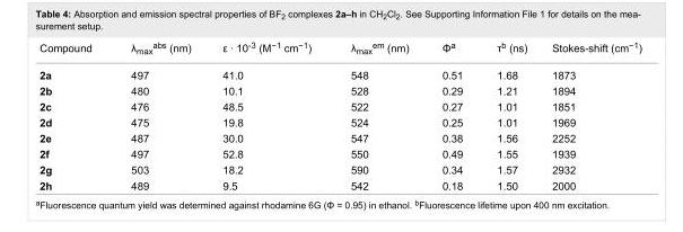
<table><tbody><tr><td>Compound</td><td>λ<sub>max</sub><sup>abs</sup> (nm)</td><td>ε · 10<sup>-3</sup> (M<sup>−1</sup> cm<sup>−1</sup>)</td><td>λ<sub>max</sub><sup>em</sup> (nm)</td><td>Φ<sup>a</sup></td><td>τ<sup>b</sup> (ns)</td><td>Stokes-shift (cm<sup>−1</sup>)</td></tr><tr><td>2a</td><td>497</td><td>41.0</td><td>548</td><td>0.51</td><td>1.68</td><td>1873</td></tr><tr><td>2b</td><td>480</td><td>10.1</td><td>528</td><td>0.29</td><td>1.21</td><td>1894</td></tr><tr><td>2c</td><td>476</td><td>48.5</td><td>522</td><td>0.27</td><td>1.01</td><td>1851</td></tr><tr><td>2d</td><td>475</td><td>19.8</td><td>524</td><td>0.25</td><td>1.01</td><td>1969</td></tr><tr><td>2e</td><td>487</td><td>30.0</td><td>547</td><td>0.38</td><td>1.56</td><td>2252</td></tr><tr><td>2f</td><td>497</td><td>52.8</td><td>550</td><td>0.49</td><td>1.55</td><td>1939</td></tr><tr><td>2g</td><td>503</td><td>18.2</td><td>590</td><td>0.34</td><td>1.57</td><td>2932</td></tr><tr><td>2h</td><td>489</td><td>9.5</td><td>542</td><td>0.18</td><td>1.50</td><td>2000</td></tr></tbody></table>